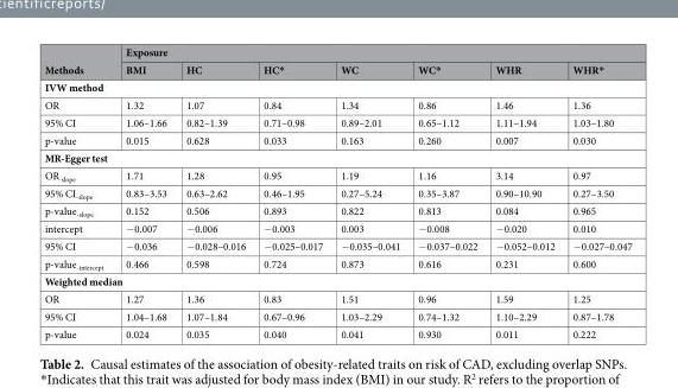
<table><thead><tr><td rowspan="2">Methods</td><td colspan="7">Exposure</td></tr><tr><td>BMI</td><td>HC</td><td>HC*</td><td>WC</td><td>WC*</td><td>WHR</td><td>WHR*</td></tr></thead><tbody><tr><td colspan="8">IVW method</td></tr><tr><td>OR</td><td>1.32</td><td>1.07</td><td>0.84</td><td>1.34</td><td>0.86</td><td>1.46</td><td>1.36</td></tr><tr><td>95% CI</td><td>1.06–1.66</td><td>0.82–1.39</td><td>0.71–0.98</td><td>0.89–2.01</td><td>0.65–1.12</td><td>1.11–1.94</td><td>1.03–1.80</td></tr><tr><td>p-value</td><td>0.015</td><td>0.628</td><td>0.033</td><td>0.163</td><td>0.260</td><td>0.007</td><td>0.030</td></tr><tr><td colspan="8">MR-Egger test</td></tr><tr><td>OR<sub>-slope</sub></td><td>1.71</td><td>1.28</td><td>0.95</td><td>1.19</td><td>1.16</td><td>3.14</td><td>0.97</td></tr><tr><td>95% CI<sub>-slope</sub></td><td>0.83–3.53</td><td>0.63–2.62</td><td>0.46–1.95</td><td>0.27–5.24</td><td>0.35–3.87</td><td>0.90–10.90</td><td>0.27–3.50</td></tr><tr><td>p-value<sub>-slope</sub></td><td>0.152</td><td>0.506</td><td>0.893</td><td>0.822</td><td>0.813</td><td>0.084</td><td>0.965</td></tr><tr><td>intercept</td><td>−0.007</td><td>−0.006</td><td>−0.003</td><td>0.003</td><td>−0.008</td><td>−0.020</td><td>0.010</td></tr><tr><td>95% CI</td><td>−0.036</td><td>−0.028–0.016</td><td>−0.025–0.017</td><td>−0.035–0.041</td><td>−0.037–0.022</td><td>−0.052–0.012</td><td>−0.027–0.047</td></tr><tr><td>p-value<sub>-intercept</sub></td><td>0.466</td><td>0.598</td><td>0.724</td><td>0.873</td><td>0.616</td><td>0.231</td><td>0.600</td></tr><tr><td colspan="8">Weighted median</td></tr><tr><td>OR</td><td>1.27</td><td>1.36</td><td>0.83</td><td>1.51</td><td>0.96</td><td>1.59</td><td>1.25</td></tr><tr><td>95% CI</td><td>1.04–1.68</td><td>1.07–1.84</td><td>0.67–0.96</td><td>1.03–2.29</td><td>0.74–1.32</td><td>1.10–2.29</td><td>0.87–1.78</td></tr><tr><td>p-value</td><td>0.024</td><td>0.035</td><td>0.040</td><td>0.041</td><td>0.930</td><td>0.011</td><td>0.222</td></tr></tbody></table>